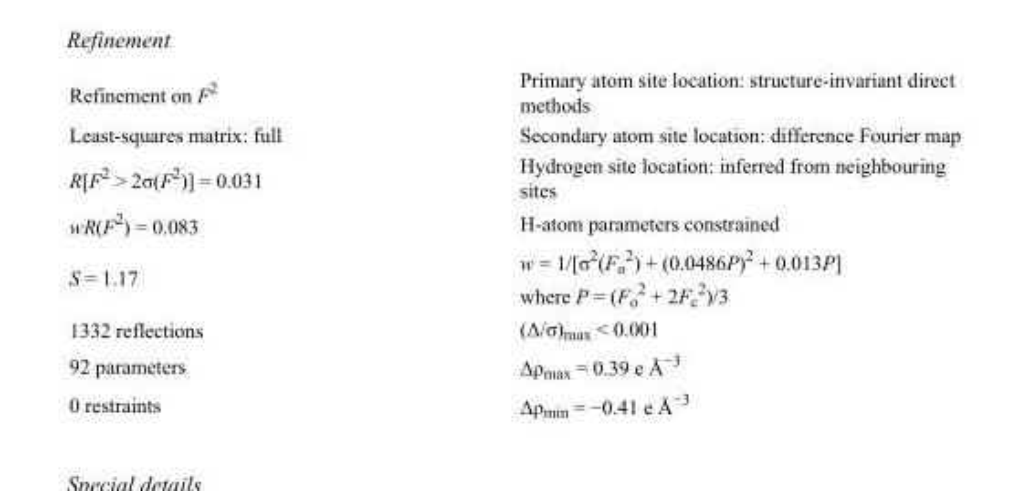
<table><tbody><tr><td>Refinement on F<sup>2</sup></td><td>Primary atom site location: structure-invariant direct methods</td></tr><tr><td>Least-squares matrix: full</td><td>Secondary atom site location: difference Fourier map</td></tr><tr><td>R[F<sup>2</sup> &gt; 2σ(F<sup>2</sup>)] = 0.031</td><td>Hydrogen site location: inferred from neighbouring sites</td></tr><tr><td>wR(F<sup>2</sup>) = 0.083</td><td>H-atom parameters constrained</td></tr><tr><td>S = 1.17</td><td>w = 1/[σ<sup>2</sup>(F<sub>o</sub> <sup>2</sup>) + (0.0486P)<sup>2</sup> + 0.013P] where P = (F<sub>o</sub> <sup>2</sup> + 2F<sub>c</sub> <sup>2</sup>)/3</td></tr><tr><td>1332 reflections</td><td>(Δ/σ)<sub>max</sub> &lt; 0.001</td></tr><tr><td>92 parameters</td><td>Δρ<sub>max</sub> = 0.39 e Å<sup>−3</sup></td></tr><tr><td>0 restraints</td><td>Δρ<sub>min</sub> = −0.41 e Å<sup>−3</sup></td></tr></tbody></table>